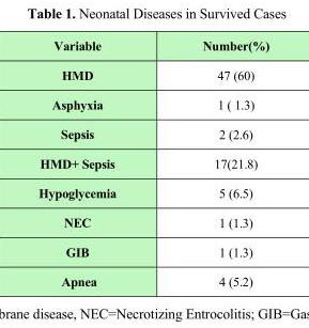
<table><thead><tr><td>Variable</td><td>Number(%)</td></tr></thead><tbody><tr><td>HMD</td><td>47 (60)</td></tr><tr><td>Asphyxia</td><td>1 ( 1.3)</td></tr><tr><td>Sepsis</td><td>2 (2.6)</td></tr><tr><td>HMD+ Sepsis</td><td>17(21.8)</td></tr><tr><td>Hypoglycemia</td><td>5 (6.5)</td></tr><tr><td>NEC</td><td>1 (1.3)</td></tr><tr><td>GIB</td><td>1 (1.3)</td></tr><tr><td>Apnea</td><td>4 (5.2)</td></tr></tbody></table>